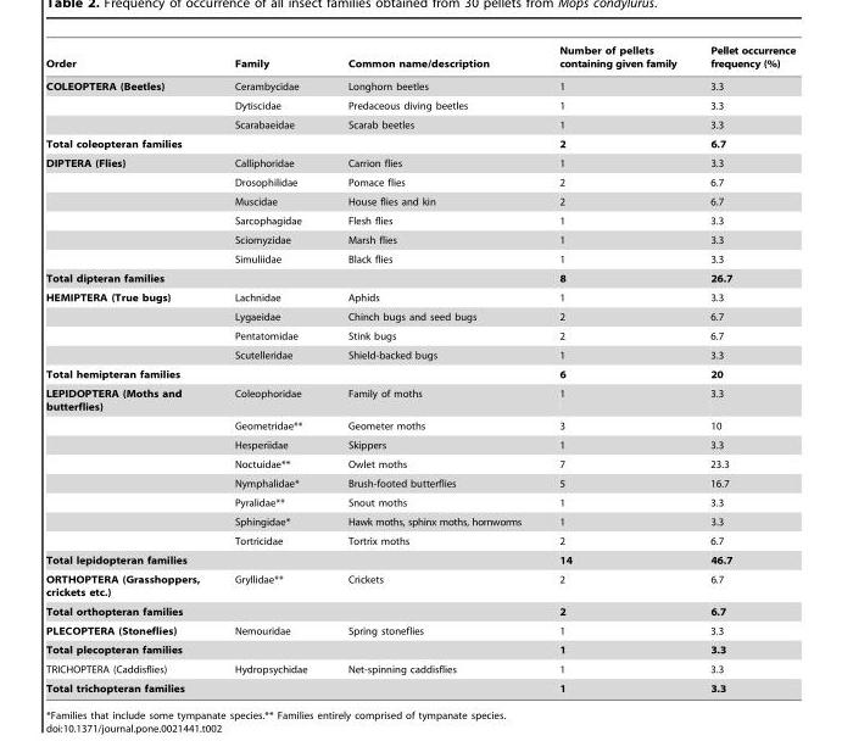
<table><thead><tr><td>Order</td><td>Family</td><td>Common name/description</td><td>Number of pellets containing given family</td><td>Pellet occurrence frequency (%)</td></tr></thead><tbody><tr><td rowspan="3">COLEOPTERA (Beetles)</td><td>Cerambycidae</td><td>Longhorn beetles</td><td>1</td><td>3.3</td></tr><tr><td>Dytiscidae</td><td>Predaceous diving beetles</td><td>1</td><td>3.3</td></tr><tr><td>Scarabaeidae</td><td>Scarab beetles</td><td>1</td><td>3.3</td></tr><tr><td colspan="2">Total coleopteran families</td><td></td><td>2</td><td>6.7</td></tr><tr><td rowspan="6">DIPTERA (Flies)</td><td>Calliphoridae</td><td>Carrion flies</td><td>1</td><td>3.3</td></tr><tr><td>Drosophilidae</td><td>Pomace flies</td><td>2</td><td>6.7</td></tr><tr><td>Muscidae</td><td>House flies and kin</td><td>2</td><td>6.7</td></tr><tr><td>Sarcophagidae</td><td>Flesh flies</td><td>1</td><td>3.3</td></tr><tr><td>Sciomyzidae</td><td>Marsh flies</td><td>1</td><td>3.3</td></tr><tr><td>Simuliidae</td><td>Black flies</td><td>1</td><td>3.3</td></tr><tr><td colspan="2">Total dipteran families</td><td></td><td>8</td><td>26.7</td></tr><tr><td rowspan="4">HEMIPTERA (True bugs)</td><td>Lachnidae</td><td>Aphids</td><td>1</td><td>3.3</td></tr><tr><td>Lygaeidae</td><td>Chinch bugs and seed bugs</td><td>2</td><td>6.7</td></tr><tr><td>Pentatomidae</td><td>Stink bugs</td><td>2</td><td>6.7</td></tr><tr><td>Scutelleridae</td><td>Shield-backed bugs</td><td>1</td><td>3.3</td></tr><tr><td colspan="2">Total hemipteran families</td><td></td><td>6</td><td>20</td></tr><tr><td rowspan="8">LEPIDOPTERA (Moths and butterflies)</td><td>Coleophoridae</td><td>Family of moths</td><td>1</td><td>3.3</td></tr><tr><td>Geometridae**</td><td>Geometer moths</td><td>3</td><td>10</td></tr><tr><td>Hesperiidae</td><td>Skippers</td><td>1</td><td>3.3</td></tr><tr><td>Noctuidae**</td><td>Owlet moths</td><td>7</td><td>23.3</td></tr><tr><td>Nymphalidae*</td><td>Brush-footed butterflies</td><td>5</td><td>16.7</td></tr><tr><td>Pyralidae**</td><td>Snout moths</td><td>1</td><td>3.3</td></tr><tr><td>Sphingidae*</td><td>Hawk moths, sphinx moths, hornworms</td><td>1</td><td>3.3</td></tr><tr><td>Tortricidae</td><td>Tortrix moths</td><td>2</td><td>6.7</td></tr><tr><td colspan="2">Total lepidopteran families</td><td></td><td>14</td><td>46.7</td></tr><tr><td>ORTHOPTERA (Grasshoppers, crickets etc.)</td><td>Gryllidae**</td><td>Crickets</td><td>2</td><td>6.7</td></tr><tr><td colspan="2">Total orthopteran families</td><td></td><td>2</td><td>6.7</td></tr><tr><td>PLECOPTERA (Stoneflies)</td><td>Nemouridae</td><td>Spring stoneflies</td><td>1</td><td>3.3</td></tr><tr><td colspan="2">Total plecopteran families</td><td></td><td>1</td><td>3.3</td></tr><tr><td>TRICHOPTERA (Caddisflies)</td><td>Hydropsychidae</td><td>Net-spinning caddisflies</td><td>1</td><td>3.3</td></tr><tr><td colspan="2">Total trichopteran families</td><td></td><td>1</td><td>3.3</td></tr></tbody></table>